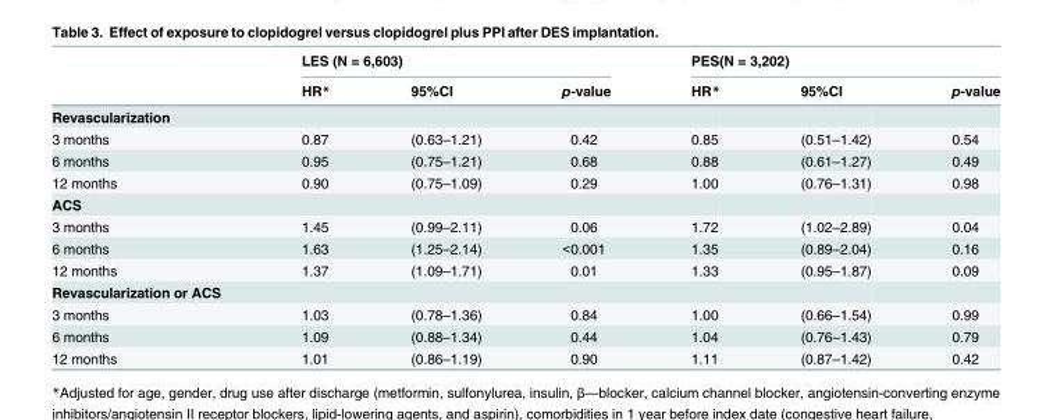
<table><thead><tr><td rowspan="2"></td><td colspan="3">LES (N = 6,603)</td><td colspan="3">PES(N = 3,202)</td></tr><tr><td>HR*</td><td>95%CI</td><td>p-value</td><td>HR*</td><td>95%CI</td><td>p-value</td></tr></thead><tbody><tr><td colspan="7">Revascularization</td></tr><tr><td>3 months</td><td>0.87</td><td>(0.63–1.21)</td><td>0.42</td><td>0.85</td><td>(0.51–1.42)</td><td>0.54</td></tr><tr><td>6 months</td><td>0.95</td><td>(0.75–1.21)</td><td>0.68</td><td>0.88</td><td>(0.61–1.27)</td><td>0.49</td></tr><tr><td>12 months</td><td>0.90</td><td>(0.75–1.09)</td><td>0.29</td><td>1.00</td><td>(0.76–1.31)</td><td>0.98</td></tr><tr><td colspan="7">ACS</td></tr><tr><td>3 months</td><td>1.45</td><td>(0.99–2.11)</td><td>0.06</td><td>1.72</td><td>(1.02–2.89)</td><td>0.04</td></tr><tr><td>6 months</td><td>1.63</td><td>(1.25–2.14)</td><td>&lt;0.001</td><td>1.35</td><td>(0.89–2.04)</td><td>0.16</td></tr><tr><td>12 months</td><td>1.37</td><td>(1.09–1.71)</td><td>0.01</td><td>1.33</td><td>(0.95–1.87)</td><td>0.09</td></tr><tr><td colspan="7">Revascularization or ACS</td></tr><tr><td>3 months</td><td>1.03</td><td>(0.78–1.36)</td><td>0.84</td><td>1.00</td><td>(0.66–1.54)</td><td>0.99</td></tr><tr><td>6 months</td><td>1.09</td><td>(0.88–1.34)</td><td>0.44</td><td>1.04</td><td>(0.76–1.43)</td><td>0.79</td></tr><tr><td>12 months</td><td>1.01</td><td>(0.86–1.19)</td><td>0.90</td><td>1.11</td><td>(0.87–1.42)</td><td>0.42</td></tr></tbody></table>